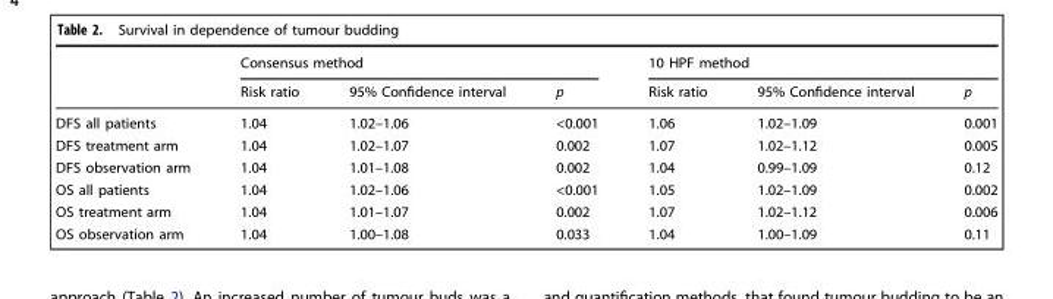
<table><thead><tr><td rowspan="2"></td><td colspan="3">Consensus method</td><td colspan="3">10 HPF method</td></tr><tr><td>Risk ratio</td><td>95% Confidence interval</td><td>p</td><td>Risk ratio</td><td>95% Confidence interval</td><td>p</td></tr></thead><tbody><tr><td>DFS all patients</td><td>1.04</td><td>1.02–1.06</td><td>&lt;0.001</td><td>1.06</td><td>1.02–1.09</td><td>0.001</td></tr><tr><td>DFS treatment arm</td><td>1.04</td><td>1.02–1.07</td><td>0.002</td><td>1.07</td><td>1.02–1.12</td><td>0.005</td></tr><tr><td>DFS observation arm</td><td>1.04</td><td>1.01–1.08</td><td>0.002</td><td>1.04</td><td>0.99–1.09</td><td>0.12</td></tr><tr><td>OS all patients</td><td>1.04</td><td>1.02–1.06</td><td>&lt;0.001</td><td>1.05</td><td>1.02–1.09</td><td>0.002</td></tr><tr><td>OS treatment arm</td><td>1.04</td><td>1.01–1.07</td><td>0.002</td><td>1.07</td><td>1.02–1.12</td><td>0.006</td></tr><tr><td>OS observation arm</td><td>1.04</td><td>1.00–1.08</td><td>0.033</td><td>1.04</td><td>1.00–1.09</td><td>0.11</td></tr></tbody></table>